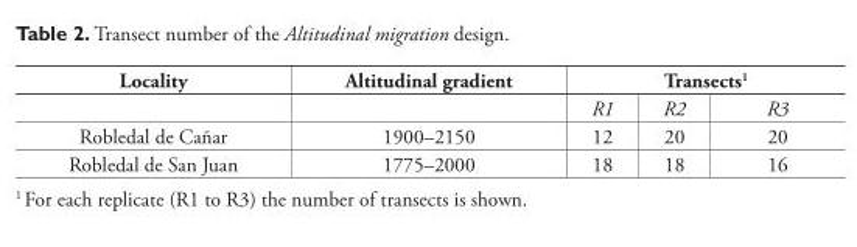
<table><thead><tr><td rowspan="2">Locality</td><td rowspan="2">Altitudinal gradient</td><td colspan="3">Transects<sup>1</sup></td></tr><tr><td>R1</td><td>R2</td><td>R3</td></tr></thead><tbody><tr><td>Robledal de Cañar</td><td>1900–2150</td><td>12</td><td>20</td><td>20</td></tr><tr><td>Robledal de San Juan</td><td>1775–2000</td><td>18</td><td>18</td><td>16</td></tr></tbody></table>